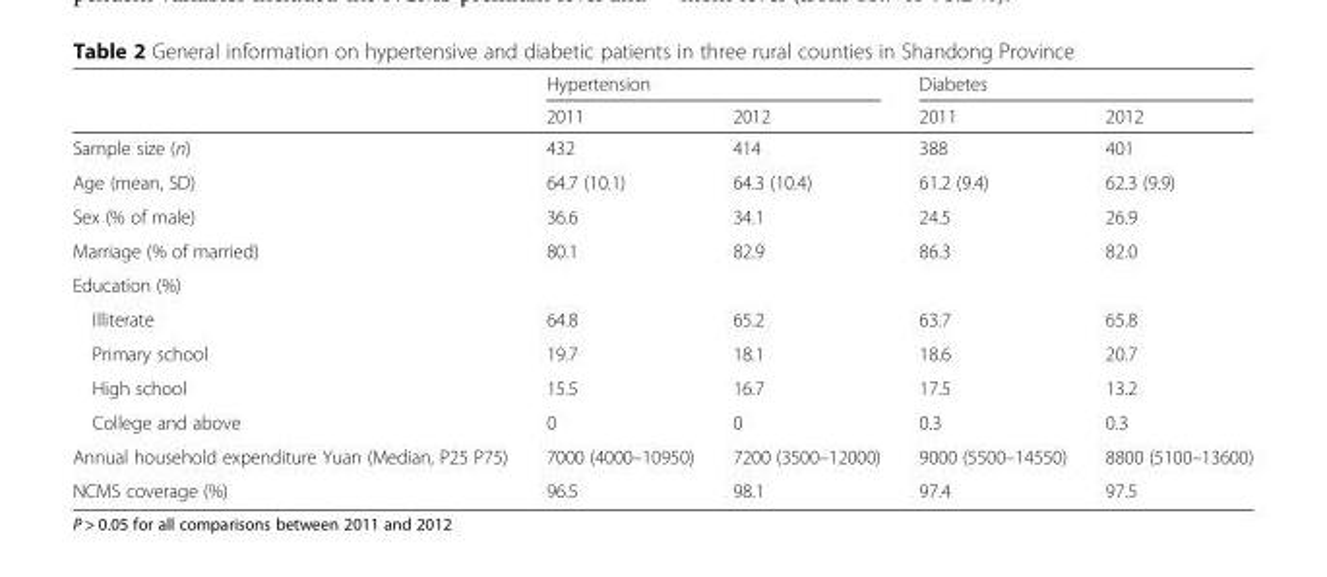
<table><thead><tr><td rowspan="2"></td><td colspan="2">Hypertension</td><td colspan="2">Diabetes</td></tr><tr><td>2011</td><td>2012</td><td>2011</td><td>2012</td></tr></thead><tbody><tr><td>Sample size (n)</td><td>432</td><td>414</td><td>388</td><td>401</td></tr><tr><td>Age (mean, SD)</td><td>64.7 (10.1)</td><td>64.3 (10.4)</td><td>61.2 (9.4)</td><td>62.3 (9.9)</td></tr><tr><td>Sex (% of male)</td><td>36.6</td><td>34.1</td><td>24.5</td><td>26.9</td></tr><tr><td>Marriage (% of married)</td><td>80.1</td><td>82.9</td><td>86.3</td><td>82.0</td></tr><tr><td colspan="5">Education (%)</td></tr><tr><td>Illiterate</td><td>64.8</td><td>65.2</td><td>63.7</td><td>65.8</td></tr><tr><td>Primary school</td><td>19.7</td><td>18.1</td><td>18.6</td><td>20.7</td></tr><tr><td>High school</td><td>15.5</td><td>16.7</td><td>17.5</td><td>13.2</td></tr><tr><td>College and above</td><td>0</td><td>0</td><td>0.3</td><td>0.3</td></tr><tr><td>Annual household expenditure Yuan (Median, P25 P75)</td><td>7000 (4000–10950)</td><td>7200 (3500–12000)</td><td>9000 (5500–14550)</td><td>8800 (5100–13600)</td></tr><tr><td>NCMS coverage (%)</td><td>96.5</td><td>98.1</td><td>97.4</td><td>97.5</td></tr></tbody></table>